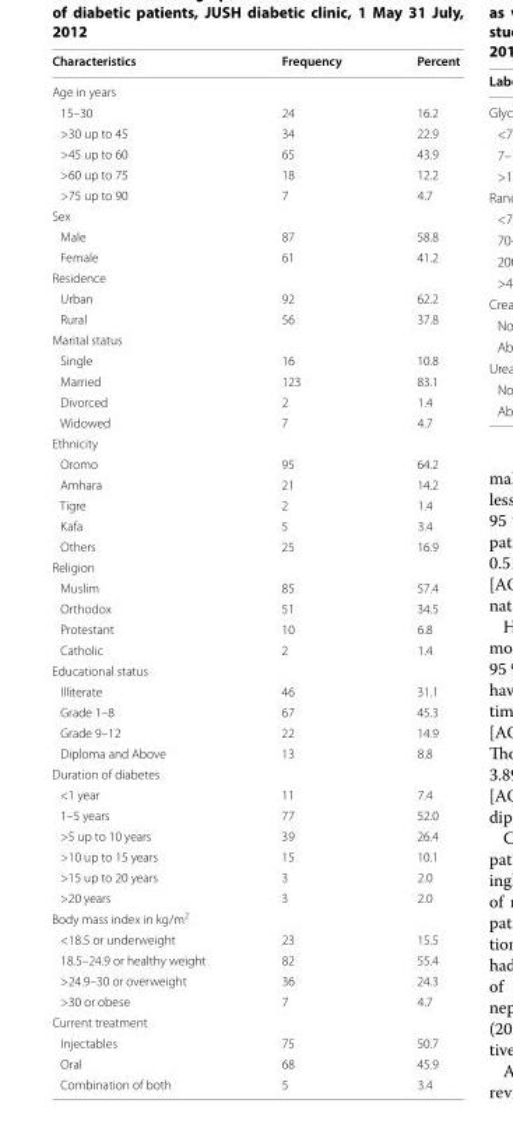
<table><thead><tr><td>Characteristics</td><td>Frequency</td><td>Percent</td></tr></thead><tbody><tr><td colspan="3">Age in years</td></tr><tr><td>15–30</td><td>24</td><td>16.2</td></tr><tr><td>&gt;30 up to 45</td><td>34</td><td>22.9</td></tr><tr><td>&gt;45 up to 60</td><td>65</td><td>43.9</td></tr><tr><td>&gt;60 up to 75</td><td>18</td><td>12.2</td></tr><tr><td>&gt;75 up to 90</td><td>7</td><td>4.7</td></tr><tr><td colspan="3">Sex</td></tr><tr><td>Male</td><td>87</td><td>58.8</td></tr><tr><td>Female</td><td>61</td><td>41.2</td></tr><tr><td colspan="3">Residence</td></tr><tr><td>Urban</td><td>92</td><td>62.2</td></tr><tr><td>Rural</td><td>56</td><td>37.8</td></tr><tr><td colspan="3">Marital status</td></tr><tr><td>Single</td><td>16</td><td>10.8</td></tr><tr><td>Married</td><td>123</td><td>83.1</td></tr><tr><td>Divorced</td><td>2</td><td>1.4</td></tr><tr><td>Widowed</td><td>7</td><td>4.7</td></tr><tr><td colspan="3">Ethnicity</td></tr><tr><td>Oromo</td><td>95</td><td>64.2</td></tr><tr><td>Amhara</td><td>21</td><td>14.2</td></tr><tr><td>Tigre</td><td>2</td><td>1.4</td></tr><tr><td>Kafa</td><td>5</td><td>3.4</td></tr><tr><td>Others</td><td>25</td><td>16.9</td></tr><tr><td colspan="3">Religion</td></tr><tr><td>Muslim</td><td>85</td><td>57.4</td></tr><tr><td>Orthodox</td><td>51</td><td>34.5</td></tr><tr><td>Protestant</td><td>10</td><td>6.8</td></tr><tr><td>Catholic</td><td>2</td><td>1.4</td></tr><tr><td colspan="3">Educational status</td></tr><tr><td>Illiterate</td><td>46</td><td>31.1</td></tr><tr><td>Grade 1–8</td><td>67</td><td>45.3</td></tr><tr><td>Grade 9–12</td><td>22</td><td>14.9</td></tr><tr><td>Diploma and Above</td><td>13</td><td>8.8</td></tr><tr><td colspan="3">Duration of diabetes</td></tr><tr><td>&lt;1 year</td><td>11</td><td>7.4</td></tr><tr><td>1–5 years</td><td>77</td><td>52.0</td></tr><tr><td>&gt;5 up to 10 years</td><td>39</td><td>26.4</td></tr><tr><td>&gt;10 up to 15 years</td><td>15</td><td>10.1</td></tr><tr><td>&gt;15 up to 20 years</td><td>3</td><td>2.0</td></tr><tr><td>&gt;20 years</td><td>3</td><td>2.0</td></tr><tr><td colspan="3">Body mass index in kg/m<sup>2</sup></td></tr><tr><td>&lt;18.5 or underweight</td><td>23</td><td>15.5</td></tr><tr><td>18.5–24.9 or healthy weight</td><td>82</td><td>55.4</td></tr><tr><td>&gt;24.9–30 or overweight</td><td>36</td><td>24.3</td></tr><tr><td>&gt;30 or obese</td><td>7</td><td>4.7</td></tr><tr><td colspan="3">Current treatment</td></tr><tr><td>Injectables</td><td>75</td><td>50.7</td></tr><tr><td>Oral</td><td>68</td><td>45.9</td></tr><tr><td>Combination of both</td><td>5</td><td>3.4</td></tr></tbody></table>